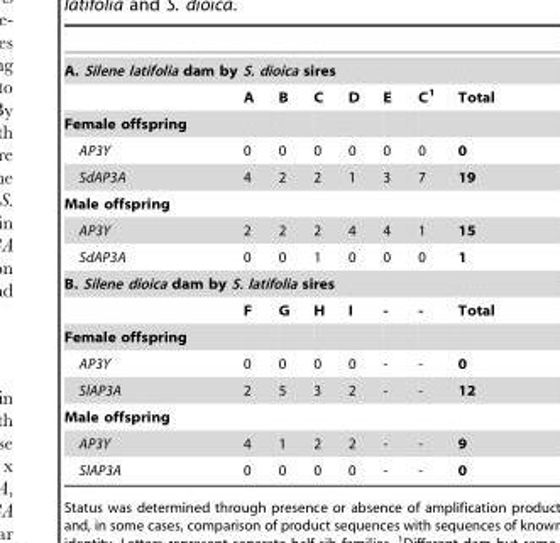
<table><tbody><tr><td colspan="8">A. Silene latifolia dam by S. dioica sires</td></tr><tr><td></td><td>A</td><td>B</td><td>C</td><td>D</td><td>E</td><td>C<sup>1</sup></td><td>Total</td></tr><tr><td colspan="8">Female offspring</td></tr><tr><td>AP3Y</td><td>0</td><td>0</td><td>0</td><td>0</td><td>0</td><td>0</td><td>0</td></tr><tr><td>SdAP3A</td><td>4</td><td>2</td><td>2</td><td>1</td><td>3</td><td>7</td><td>19</td></tr><tr><td colspan="8">Male offspring</td></tr><tr><td>AP3Y</td><td>2</td><td>2</td><td>2</td><td>4</td><td>4</td><td>1</td><td>15</td></tr><tr><td>SdAP3A</td><td>0</td><td>0</td><td>1</td><td>0</td><td>0</td><td>0</td><td>1</td></tr><tr><td colspan="8">B. Silene dioica dam by S. latifolia sires</td></tr><tr><td></td><td>F</td><td>G</td><td>H</td><td>I</td><td>-</td><td>-</td><td>Total</td></tr><tr><td colspan="8">Female offspring</td></tr><tr><td>AP3Y</td><td>0</td><td>0</td><td>0</td><td>0</td><td>-</td><td>-</td><td>0</td></tr><tr><td>SlAP3A</td><td>2</td><td>5</td><td>3</td><td>2</td><td>-</td><td>-</td><td>12</td></tr><tr><td colspan="8">Male offspring</td></tr><tr><td>AP3Y</td><td>4</td><td>1</td><td>2</td><td>2</td><td>-</td><td>-</td><td>9</td></tr><tr><td>SlAP3A</td><td>0</td><td>0</td><td>0</td><td>0</td><td>-</td><td>-</td><td>0</td></tr></tbody></table>